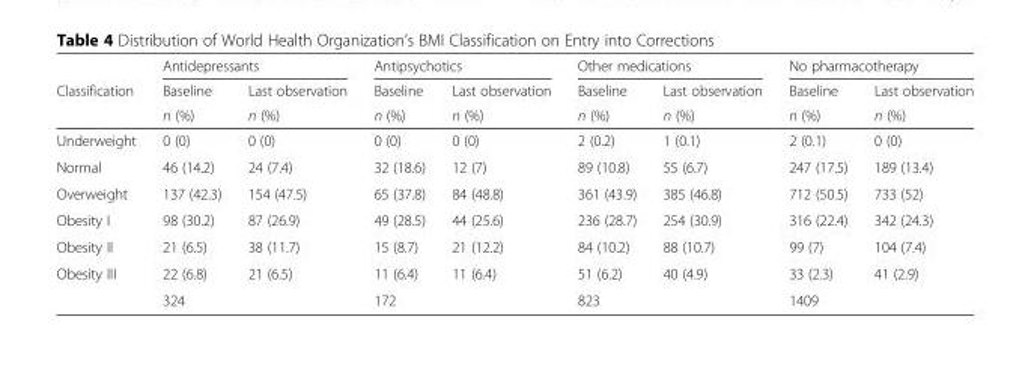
<table><thead><tr><td rowspan="3">Classification</td><td colspan="2">Antidepressants</td><td colspan="2">Antipsychotics</td><td colspan="2">Other medications</td><td colspan="2">No pharmacotherapy</td></tr><tr><td rowspan="2">Baseline n (%)</td><td rowspan="2">Last observation n (%)</td><td rowspan="2">Baseline n (%)</td><td rowspan="2">Last observation n (%)</td><td rowspan="2">Baseline n (%)</td><td rowspan="2">Last observation n (%)</td><td rowspan="2">Baseline n (%)</td><td rowspan="2">Last observation n (%)</td></tr><tr></tr></thead><tbody><tr><td>Underweight</td><td>0 (0)</td><td>0 (0)</td><td>0 (0)</td><td>0 (0)</td><td>2 (0.2)</td><td>1 (0.1)</td><td>2 (0.1)</td><td>0 (0)</td></tr><tr><td>Normal</td><td>46 (14.2)</td><td>24 (7.4)</td><td>32 (18.6)</td><td>12 (7)</td><td>89 (10.8)</td><td>55 (6.7)</td><td>247 (17.5)</td><td>189 (13.4)</td></tr><tr><td>Overweight</td><td>137 (42.3)</td><td>154 (47.5)</td><td>65 (37.8)</td><td>84 (48.8)</td><td>361 (43.9)</td><td>385 (46.8)</td><td>712 (50.5)</td><td>733 (52)</td></tr><tr><td>Obesity I</td><td>98 (30.2)</td><td>87 (26.9)</td><td>49 (28.5)</td><td>44 (25.6)</td><td>236 (28.7)</td><td>254 (30.9)</td><td>316 (22.4)</td><td>342 (24.3)</td></tr><tr><td>Obesity II</td><td>21 (6.5)</td><td>38 (11.7)</td><td>15 (8.7)</td><td>21 (12.2)</td><td>84 (10.2)</td><td>88 (10.7)</td><td>99 (7)</td><td>104 (7.4)</td></tr><tr><td rowspan="2">Obesity III</td><td>22 (6.8)</td><td>21 (6.5)</td><td>11 (6.4)</td><td>11 (6.4)</td><td>51 (6.2)</td><td>40 (4.9)</td><td>33 (2.3)</td><td>41 (2.9)</td></tr><tr><td colspan="2">324</td><td colspan="2">172</td><td colspan="2">823</td><td colspan="2">1409</td></tr></tbody></table>